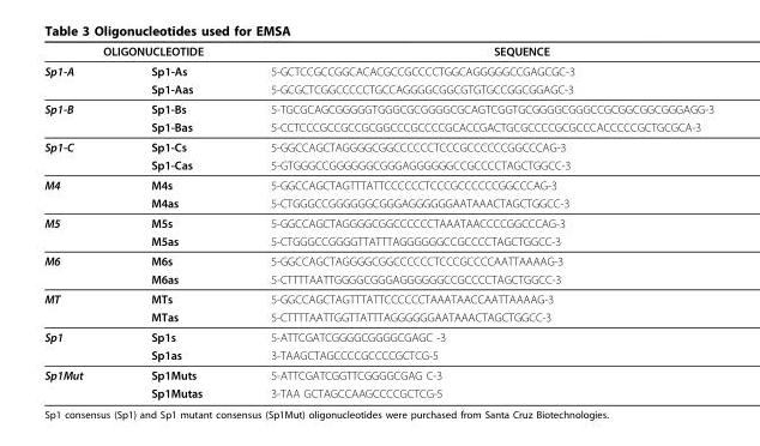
<table><thead><tr><td colspan="2">OLIGONUCLEOTIDE</td><td rowspan="2">SEQUENCE 5-GCTCCGCCGGCACACGCCGCCCCTGGCAGGGGGCCGAGCGC-3</td></tr><tr><td>Sp1-A</td><td>Sp1-As</td></tr></thead><tbody><tr><td></td><td>Sp1-Aas</td><td>5-GCGCTCGGCCCCCTGCCAGGGGCGGCGTGTGCCGGCGGAGC-3</td></tr><tr><td rowspan="2">Sp1-B</td><td>Sp1-Bs</td><td>5-TGCGCAGCGGGGGTGGGCGCGGGGCGCAGTCGGTGCGGGGCGGGCCGCGGCGGCGGGAGG-3</td></tr><tr><td>Sp1-Bas</td><td>5-CCTCCCGCCGCCGCGGCCCGCCCCGCACCGACTGCGCCCCGCGCCCACCCCCGCTGCGCA-3</td></tr><tr><td rowspan="2">Sp1-C</td><td>Sp1-Cs</td><td>5-GGCCAGCTAGGGGCGGCCCCCCTCCCGCCCCCCGGCCCAG-3</td></tr><tr><td>Sp1-Cas</td><td>5-GTGGGCCGGGGGGCGGGAGGGGGGCCGCCCCTAGCTGGCC-3</td></tr><tr><td rowspan="2">M4</td><td>M4s</td><td>5-GGCCAGCTAGTTTATTCCCCCCTCCCGCCCCCCGGCCCAG-3</td></tr><tr><td>M4as</td><td>5-CTGGGCCGGGGGGCGGGAGGGGGGAATAAACTAGCTGGCC-3</td></tr><tr><td rowspan="2">M5</td><td>M5s</td><td>5-GGCCAGCTAGGGGCGGCCCCCCTAAATAACCCCGGCCCAG-3</td></tr><tr><td>M5as</td><td>5-CTGGGCCGGGGTTATTTAGGGGGGCCGCCCCTAGCTGGCC-3</td></tr><tr><td rowspan="2">M6</td><td>M6s</td><td>5-GGCCAGCTAGGGGCGGCCCCCCTCCCGCCCCAATTAAAAG-3</td></tr><tr><td>M6as</td><td>5-CTTTTAATTGGGGCGGGAGGGGGGCCGCCCCTAGCTGGCC-3</td></tr><tr><td rowspan="2">MT</td><td>MTs</td><td>5-GGCCAGCTAGTTTATTCCCCCCTAAATAACCAATTAAAAG-3</td></tr><tr><td>MTas</td><td>5-CTTTTAATTGGTTATTTAGGGGGGAATAAACTAGCTGGCC-3</td></tr><tr><td rowspan="2">Sp1</td><td>Sp1s</td><td>5-ATTCGATCGGGGCGGGGCGAGC -3</td></tr><tr><td>Sp1as</td><td>3-TAAGCTAGCCCCGCCCCGCTCG-5</td></tr><tr><td rowspan="2">Sp1Mut</td><td>Sp1Muts</td><td>5-ATTCGATCGGTTCGGGGCGAG C-3</td></tr><tr><td>Sp1Mutas</td><td>3-TAA GCTAGCCAAGCCCCGCTCG-5</td></tr></tbody></table>